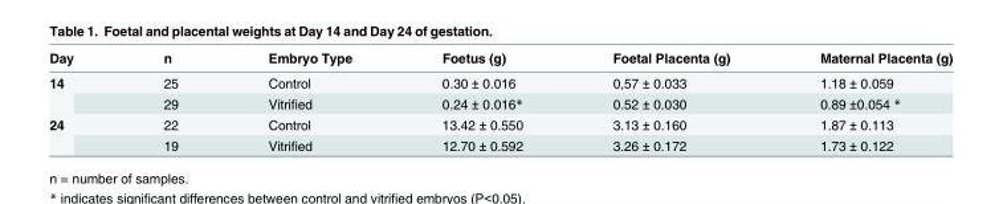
<table><thead><tr><td>Day</td><td>n</td><td>Embryo Type</td><td>Foetus (g)</td><td>Foetal Placenta (g)</td><td>Maternal Placenta (g)</td></tr></thead><tbody><tr><td rowspan="2">14</td><td>25</td><td>Control</td><td>0.30 ± 0.016</td><td>0,57 ± 0.033</td><td>1.18 ± 0.059</td></tr><tr><td>29</td><td>Vitrified</td><td>0.24 ± 0.016*</td><td>0.52 ± 0.030</td><td>0.89 ±0.054 *</td></tr><tr><td rowspan="2">24</td><td>22</td><td>Control</td><td>13.42 ± 0.550</td><td>3.13 ± 0.160</td><td>1.87 ± 0.113</td></tr><tr><td>19</td><td>Vitrified</td><td>12.70 ± 0.592</td><td>3.26 ± 0.172</td><td>1.73 ± 0.122</td></tr></tbody></table>